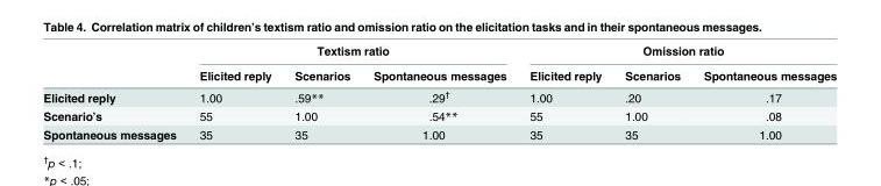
<table><thead><tr><td rowspan="2"></td><td colspan="3">Textism ratio</td><td colspan="3">Omission ratio</td></tr><tr><td>Elicited reply</td><td>Scenarios</td><td>Spontaneous messages</td><td>Elicited reply</td><td>Scenarios</td><td>Spontaneous messages</td></tr></thead><tbody><tr><td>Elicited reply</td><td>1.00</td><td>.59**</td><td>.29<sup>†</sup></td><td>1.00</td><td>.20</td><td>.17</td></tr><tr><td>Scenario’s</td><td>55</td><td>1.00</td><td>.54**</td><td>55</td><td>1.00</td><td>.08</td></tr><tr><td>Spontaneous messages</td><td>35</td><td>35</td><td>1.00</td><td>35</td><td>35</td><td>1.00</td></tr></tbody></table>